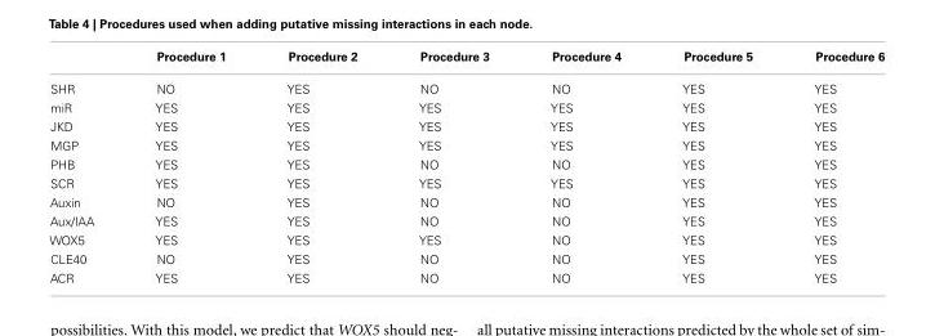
<table><thead><tr><td></td><td>Procedure 1</td><td>Procedure 2</td><td>Procedure 3</td><td>Procedure 4</td><td>Procedure 5</td><td>Procedure 6</td></tr></thead><tbody><tr><td>SHR</td><td>NO</td><td>YES</td><td>NO</td><td>NO</td><td>YES</td><td>YES</td></tr><tr><td>miR</td><td>YES</td><td>YES</td><td>YES</td><td>YES</td><td>YES</td><td>YES</td></tr><tr><td>JKD</td><td>YES</td><td>YES</td><td>YES</td><td>YES</td><td>YES</td><td>YES</td></tr><tr><td>MGP</td><td>YES</td><td>YES</td><td>YES</td><td>YES</td><td>YES</td><td>YES</td></tr><tr><td>PHB</td><td>YES</td><td>YES</td><td>NO</td><td>NO</td><td>YES</td><td>YES</td></tr><tr><td>SCR</td><td>YES</td><td>YES</td><td>YES</td><td>YES</td><td>YES</td><td>YES</td></tr><tr><td>Auxin</td><td>NO</td><td>YES</td><td>NO</td><td>NO</td><td>YES</td><td>YES</td></tr><tr><td>Aux/IAA</td><td>YES</td><td>YES</td><td>NO</td><td>NO</td><td>YES</td><td>YES</td></tr><tr><td>WOX5</td><td>YES</td><td>YES</td><td>YES</td><td>NO</td><td>YES</td><td>YES</td></tr><tr><td>CLE40</td><td>NO</td><td>YES</td><td>NO</td><td>NO</td><td>YES</td><td>YES</td></tr><tr><td>ACR</td><td>YES</td><td>YES</td><td>NO</td><td>NO</td><td>YES</td><td>YES</td></tr></tbody></table>